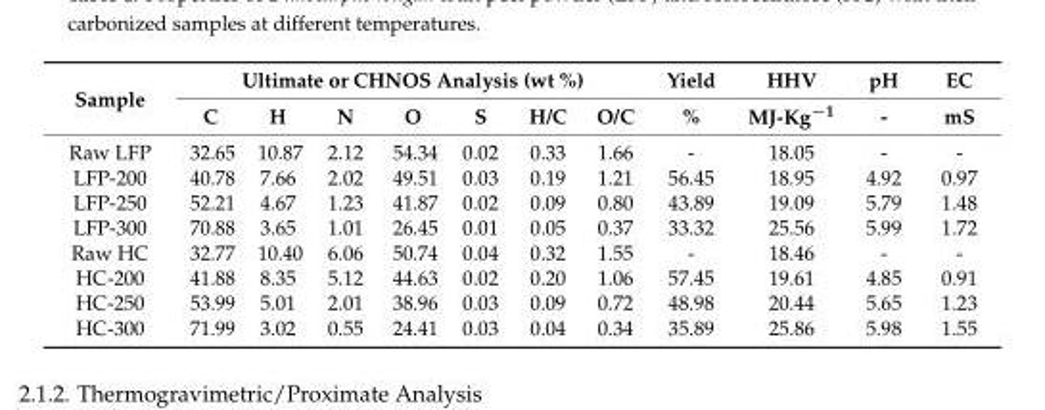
<table><thead><tr><td rowspan="2">Sample</td><td colspan="7">Ultimate or CHNOS Analysis (wt %)</td><td rowspan="2">Yield %</td><td rowspan="2">HHV MJ-Kg<sup>−1</sup></td><td rowspan="2">pH -</td><td rowspan="2">EC mS</td></tr><tr><td>C</td><td>H</td><td>N</td><td>O</td><td>S</td><td>H/C</td><td>O/C</td></tr></thead><tbody><tr><td>Raw LFP</td><td>32.65</td><td>10.87</td><td>2.12</td><td>54.34</td><td>0.02</td><td>0.33</td><td>1.66</td><td>-</td><td>18.05</td><td>-</td><td>-</td></tr><tr><td>LFP-200</td><td>40.78</td><td>7.66</td><td>2.02</td><td>49.51</td><td>0.03</td><td>0.19</td><td>1.21</td><td>56.45</td><td>18.95</td><td>4.92</td><td>0.97</td></tr><tr><td>LFP-250</td><td>52.21</td><td>4.67</td><td>1.23</td><td>41.87</td><td>0.02</td><td>0.09</td><td>0.80</td><td>43.89</td><td>19.09</td><td>5.79</td><td>1.48</td></tr><tr><td>LFP-300</td><td>70.88</td><td>3.65</td><td>1.01</td><td>26.45</td><td>0.01</td><td>0.05</td><td>0.37</td><td>33.32</td><td>25.56</td><td>5.99</td><td>1.72</td></tr><tr><td>Raw HC</td><td>32.77</td><td>10.40</td><td>6.06</td><td>50.74</td><td>0.04</td><td>0.32</td><td>1.55</td><td>-</td><td>18.46</td><td>-</td><td>-</td></tr><tr><td>HC-200</td><td>41.88</td><td>8.35</td><td>5.12</td><td>44.63</td><td>0.02</td><td>0.20</td><td>1.06</td><td>57.45</td><td>19.61</td><td>4.85</td><td>0.91</td></tr><tr><td>HC-250</td><td>53.99</td><td>5.01</td><td>2.01</td><td>38.96</td><td>0.03</td><td>0.09</td><td>0.72</td><td>48.98</td><td>20.44</td><td>5.65</td><td>1.23</td></tr><tr><td>HC-300</td><td>71.99</td><td>3.02</td><td>0.55</td><td>24.41</td><td>0.03</td><td>0.04</td><td>0.34</td><td>35.89</td><td>25.86</td><td>5.98</td><td>1.55</td></tr></tbody></table>